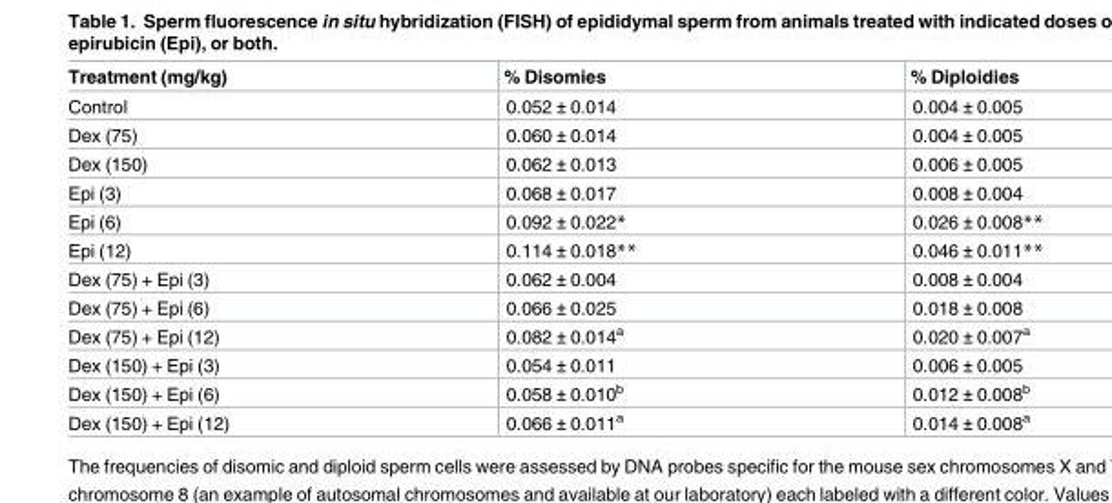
<table><thead><tr><td>Treatment (mg/kg)</td><td>% Disomies</td><td>% Diploidies</td></tr></thead><tbody><tr><td>Control</td><td>0.052 ± 0.014</td><td>0.004 ± 0.005</td></tr><tr><td>Dex (75)</td><td>0.060 ± 0.014</td><td>0.004 ± 0.005</td></tr><tr><td>Dex (150)</td><td>0.062 ± 0.013</td><td>0.006 ± 0.005</td></tr><tr><td>Epi (3)</td><td>0.068 ± 0.017</td><td>0.008 ± 0.004</td></tr><tr><td>Epi (6)</td><td>0.092 ± 0.022*</td><td>0.026 ± 0.008**</td></tr><tr><td>Epi (12)</td><td>0.114 ± 0.018**</td><td>0.046 ± 0.011**</td></tr><tr><td>Dex (75) + Epi (3)</td><td>0.062 ± 0.004</td><td>0.008 ± 0.004</td></tr><tr><td>Dex (75) + Epi (6)</td><td>0.066 ± 0.025</td><td>0.018 ± 0.008</td></tr><tr><td>Dex (75) + Epi (12)</td><td>0.082 ± 0.014<sup>a</sup></td><td>0.020 ± 0.007<sup>a</sup></td></tr><tr><td>Dex (150) + Epi (3)</td><td>0.054 ± 0.011</td><td>0.006 ± 0.005</td></tr><tr><td>Dex (150) + Epi (6)</td><td>0.058 ± 0.010<sup>b</sup></td><td>0.012 ± 0.008<sup>b</sup></td></tr><tr><td>Dex (150) + Epi (12)</td><td>0.066 ± 0.011<sup>a</sup></td><td>0.014 ± 0.008<sup>a</sup></td></tr></tbody></table>